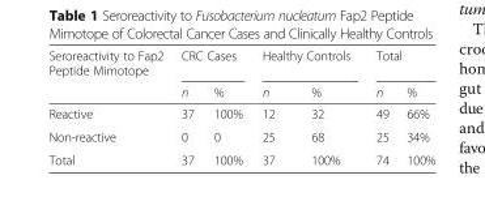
<table><thead><tr><td rowspan="2">Seroreactivity to Fap2 Peptide Mimotope</td><td colspan="2">CRC Cases</td><td colspan="2">Healthy Controls</td><td colspan="2">Total</td></tr><tr><td>n</td><td>%</td><td>n</td><td>%</td><td>n</td><td>%</td></tr></thead><tbody><tr><td>Reactive</td><td>37</td><td>100%</td><td>12</td><td>32</td><td>49</td><td>66%</td></tr><tr><td>Non-reactive</td><td>0</td><td>0</td><td>25</td><td>68</td><td>25</td><td>34%</td></tr><tr><td>Total</td><td>37</td><td>100%</td><td>37</td><td>100%</td><td>74</td><td>100%</td></tr></tbody></table>